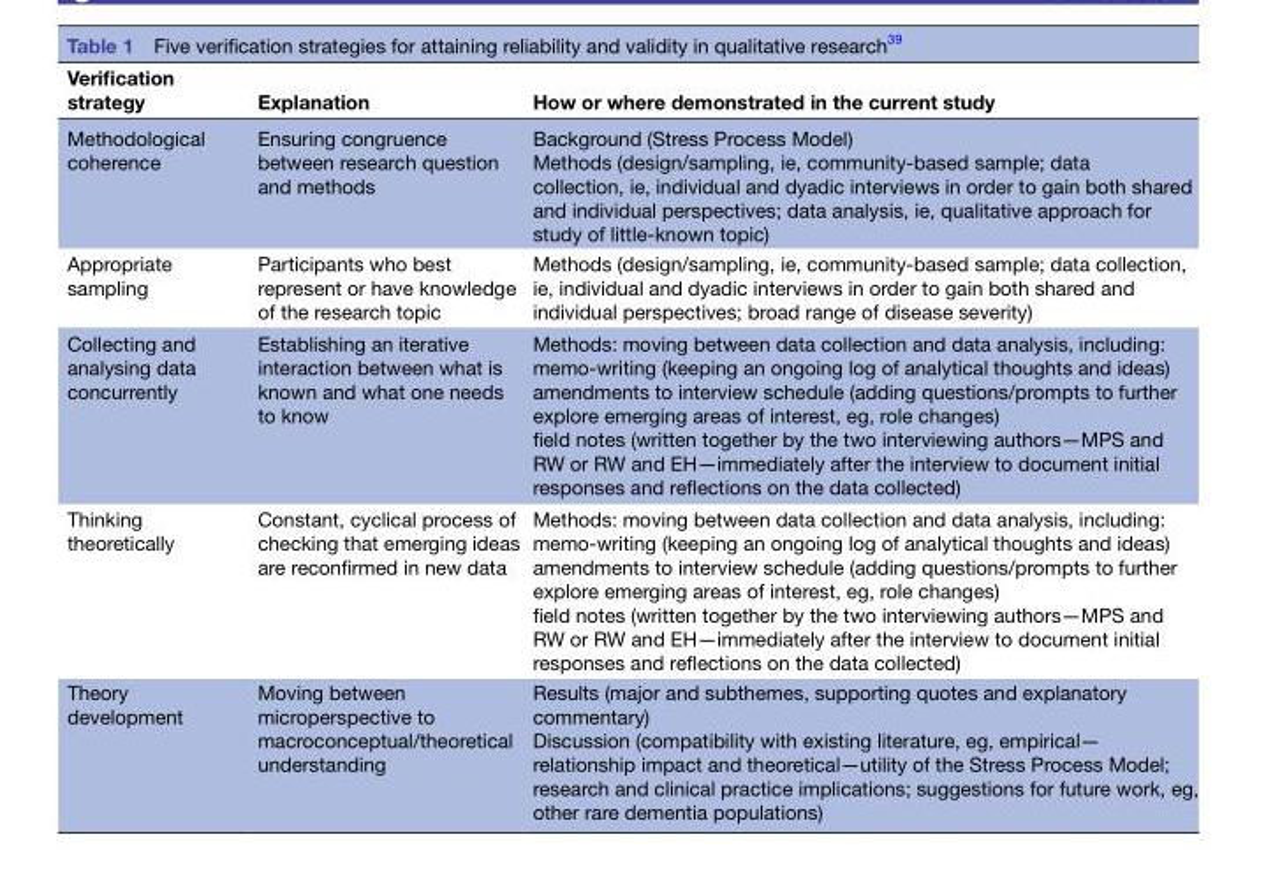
<table><thead><tr><td>Verification strategy</td><td>Explanation</td><td>How or where demonstrated in the current study</td></tr></thead><tbody><tr><td>Methodological coherence</td><td>Ensuring congruence between research question and methods</td><td>Background (Stress Process Model) Methods (design/sampling, ie, community-based sample; data collection, ie, individual and dyadic interviews in order to gain both shared and individual perspectives; data analysis, ie, qualitative approach for study of little-known topic)</td></tr><tr><td>Appropriate sampling</td><td>Participants who best represent or have knowledge of the research topic</td><td>Methods (design/sampling, ie, community-based sample; data collection, ie, individual and dyadic interviews in order to gain both shared and individual perspectives; broad range of disease severity)</td></tr><tr><td>Collecting and analysing data concurrently</td><td>Establishing an iterative interaction between what is known and what one needs to know</td><td>Methods: moving between data collection and data analysis, including: memo-writing (keeping an ongoing log of analytical thoughts and ideas) amendments to interview schedule (adding questions/prompts to further explore emerging areas of interest, eg, role changes) field notes (written together by the two interviewing authors—MPS and RW or RW and EH—immediately after the interview to document initial responses and reflections on the data collected)</td></tr><tr><td>Thinking theoretically</td><td>Constant, cyclical process of checking that emerging ideas are reconfirmed in new data</td><td>Methods: moving between data collection and data analysis, including: memo-writing (keeping an ongoing log of analytical thoughts and ideas) amendments to interview schedule (adding questions/prompts to further explore emerging areas of interest, eg, role changes) field notes (written together by the two interviewing authors—MPS and RW or RW and EH—immediately after the interview to document initial responses and reflections on the data collected)</td></tr><tr><td>Theory development</td><td>Moving between microperspective to macroconceptual/theoretical understanding</td><td>Results (major and subthemes, supporting quotes and explanatory commentary) Discussion (compatibility with existing literature, eg, empirical— relationship impact and theoretical—utility of the Stress Process Model; research and clinical practice implications; suggestions for future work, eg, other rare dementia populations)</td></tr></tbody></table>